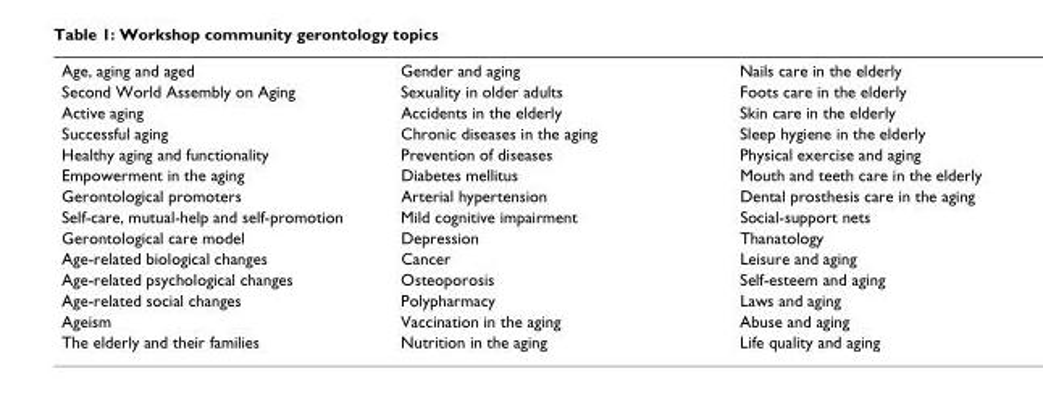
<table><tbody><tr><td>Age, aging and aged</td><td>Gender and aging</td><td>Nails care in the elderly</td></tr><tr><td>Second World Assembly on Aging</td><td>Sexuality in older adults</td><td>Foots care in the elderly</td></tr><tr><td>Active aging</td><td>Accidents in the elderly</td><td>Skin care in the elderly</td></tr><tr><td>Successful aging</td><td>Chronic diseases in the aging</td><td>Sleep hygiene in the elderly</td></tr><tr><td>Healthy aging and functionality</td><td>Prevention of diseases</td><td>Physical exercise and aging</td></tr><tr><td>Empowerment in the aging</td><td>Diabetes mellitus</td><td>Mouth and teeth care in the elderly</td></tr><tr><td>Gerontological promoters</td><td>Arterial hypertension</td><td>Dental prosthesis care in the aging</td></tr><tr><td>Self-care, mutual-help and self-promotion</td><td>Mild cognitive impairment</td><td>Social-support nets</td></tr><tr><td>Gerontological care model</td><td>Depression</td><td>Thanatology</td></tr><tr><td>Age-related biological changes</td><td>Cancer</td><td>Leisure and aging</td></tr><tr><td>Age-related psychological changes</td><td>Osteoporosis</td><td>Self-esteem and aging</td></tr><tr><td>Age-related social changes</td><td>Polypharmacy</td><td>Laws and aging</td></tr><tr><td>Ageism</td><td>Vaccination in the aging</td><td>Abuse and aging</td></tr><tr><td>The elderly and their families</td><td>Nutrition in the aging</td><td>Life quality and aging</td></tr></tbody></table>